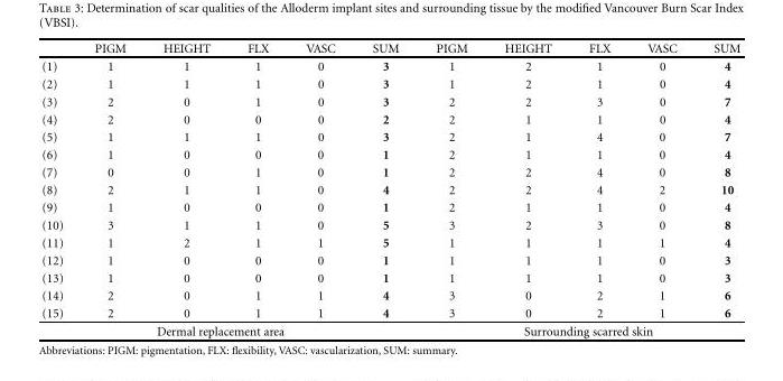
<table><thead><tr><td></td><td>PIGM</td><td>HEIGHT</td><td>FLX</td><td>VASC</td><td>SUM</td><td>PIGM</td><td>HEIGHT</td><td>FLX</td><td>VASC</td><td>SUM</td></tr></thead><tbody><tr><td>(1)</td><td>1</td><td>1</td><td>1</td><td>0</td><td>3</td><td>1</td><td>2</td><td>1</td><td>0</td><td>4</td></tr><tr><td>(2)</td><td>1</td><td>1</td><td>1</td><td>0</td><td>3</td><td>1</td><td>2</td><td>1</td><td>0</td><td>4</td></tr><tr><td>(3)</td><td>2</td><td>0</td><td>1</td><td>0</td><td>3</td><td>2</td><td>2</td><td>3</td><td>0</td><td>7</td></tr><tr><td>(4)</td><td>2</td><td>0</td><td>0</td><td>0</td><td>2</td><td>2</td><td>1</td><td>1</td><td>0</td><td>4</td></tr><tr><td>(5)</td><td>1</td><td>1</td><td>1</td><td>0</td><td>3</td><td>2</td><td>1</td><td>4</td><td>0</td><td>7</td></tr><tr><td>(6)</td><td>1</td><td>0</td><td>0</td><td>0</td><td>1</td><td>2</td><td>1</td><td>1</td><td>0</td><td>4</td></tr><tr><td>(7)</td><td>0</td><td>0</td><td>1</td><td>0</td><td>1</td><td>2</td><td>2</td><td>4</td><td>0</td><td>8</td></tr><tr><td>(8)</td><td>2</td><td>1</td><td>1</td><td>0</td><td>4</td><td>2</td><td>2</td><td>4</td><td>2</td><td>10</td></tr><tr><td>(9)</td><td>1</td><td>0</td><td>0</td><td>0</td><td>1</td><td>2</td><td>1</td><td>1</td><td>0</td><td>4</td></tr><tr><td>(10)</td><td>3</td><td>1</td><td>1</td><td>0</td><td>5</td><td>3</td><td>2</td><td>3</td><td>0</td><td>8</td></tr><tr><td>(11)</td><td>1</td><td>2</td><td>1</td><td>1</td><td>5</td><td>1</td><td>1</td><td>1</td><td>1</td><td>4</td></tr><tr><td>(12)</td><td>1</td><td>0</td><td>0</td><td>0</td><td>1</td><td>1</td><td>1</td><td>1</td><td>0</td><td>3</td></tr><tr><td>(13)</td><td>1</td><td>0</td><td>0</td><td>0</td><td>1</td><td>1</td><td>1</td><td>1</td><td>0</td><td>3</td></tr><tr><td>(14)</td><td>2</td><td>0</td><td>1</td><td>1</td><td>4</td><td>3</td><td>0</td><td>2</td><td>1</td><td>6</td></tr><tr><td>(15)</td><td>2</td><td>0</td><td>1</td><td>1</td><td>4</td><td>3</td><td>0</td><td>2</td><td>1</td><td>6</td></tr><tr><td colspan="6">Dermal replacement area</td><td colspan="5">Surrounding scarred skin</td></tr></tbody></table>